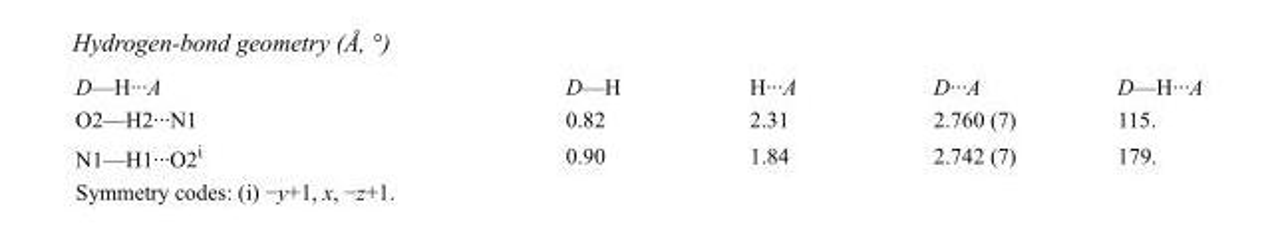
<table><tbody><tr><td>D—H···A</td><td>D—H</td><td>H···A</td><td>D···A</td><td>D—H···A</td></tr><tr><td>O2—H2···N1</td><td>0.82</td><td>2.31</td><td>2.760 (7)</td><td>115.</td></tr><tr><td>N1—H1···O2<sup>i</sup></td><td>0.90</td><td>1.84</td><td>2.742 (7)</td><td>179.</td></tr></tbody></table>